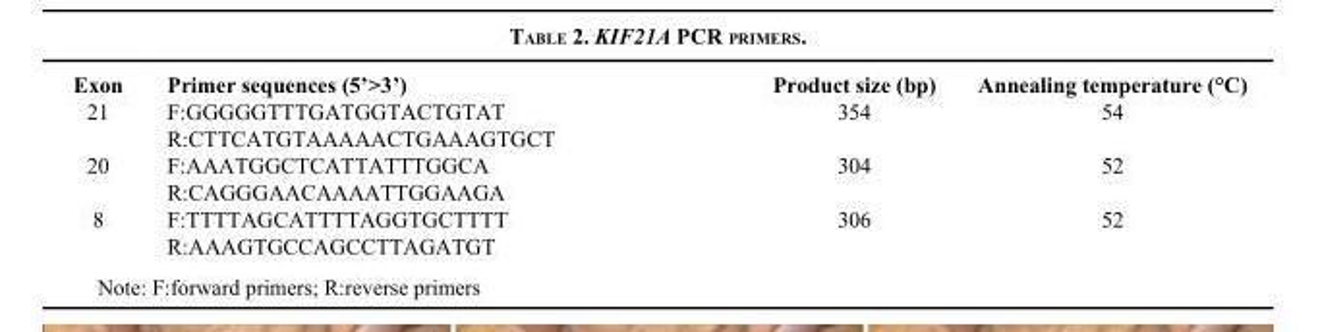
<table><thead><tr><td>Exon</td><td>Primer sequences (5’&gt;3’)</td><td>Product size (bp)</td><td>Annealing temperature (°C)</td></tr></thead><tbody><tr><td rowspan="2">21</td><td>F:GGGGGTTTGATGGTACTGTAT</td><td>354</td><td>54</td></tr><tr><td>R:CTTCATGTAAAAACTGAAAGTGCT</td><td></td><td></td></tr><tr><td rowspan="2">20</td><td>F:AAATGGCTCATTATTTGGCA</td><td>304</td><td>52</td></tr><tr><td>R:CAGGGAACAAAATTGGAAGA</td><td></td><td></td></tr><tr><td rowspan="2">8</td><td>F:TTTTAGCATTTTAGGTGCTTTT</td><td>306</td><td>52</td></tr><tr><td>R:AAAGTGCCAGCCTTAGATGT</td><td></td><td></td></tr></tbody></table>